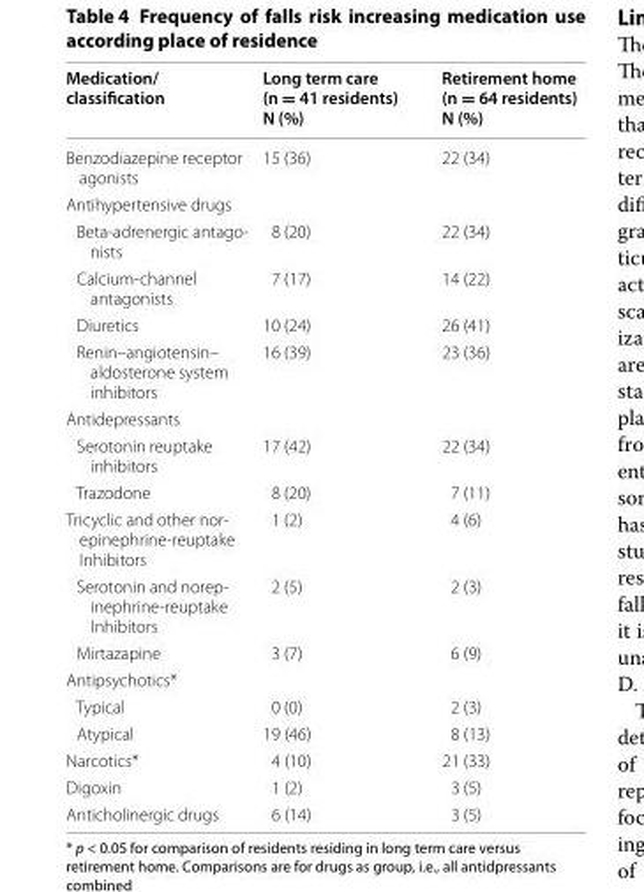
<table><thead><tr><td>Medication/ classification</td><td>Long term care (n = 41 residents) N (%)</td><td>Retirement home (n = 64 residents) N (%)</td></tr></thead><tbody><tr><td>Benzodiazepine receptor agonists</td><td>15 (36)</td><td>22 (34)</td></tr><tr><td colspan="3">Antihypertensive drugs</td></tr><tr><td>Beta‑adrenergic antago‑ nists</td><td>8 (20)</td><td>22 (34)</td></tr><tr><td>Calcium‑channel antagonists</td><td>7 (17)</td><td>14 (22)</td></tr><tr><td>Diuretics</td><td>10 (24)</td><td>26 (41)</td></tr><tr><td>Renin–angiotensin– aldosterone system inhibitors</td><td>16 (39)</td><td>23 (36)</td></tr><tr><td colspan="3">Antidepressants</td></tr><tr><td>Serotonin reuptake inhibitors</td><td>17 (42)</td><td>22 (34)</td></tr><tr><td>Trazodone</td><td>8 (20)</td><td>7 (11)</td></tr><tr><td>Tricyclic and other nor‑ epinephrine‑reuptake Inhibitors</td><td>1 (2)</td><td>4 (6)</td></tr><tr><td>Serotonin and norep‑ inephrine‑reuptake Inhibitors</td><td>2 (5)</td><td>2 (3)</td></tr><tr><td>Mirtazapine</td><td>3 (7)</td><td>6 (9)</td></tr><tr><td colspan="3">Antipsychotics*</td></tr><tr><td>Typical</td><td>0 (0)</td><td>2 (3)</td></tr><tr><td>Atypical</td><td>19 (46)</td><td>8 (13)</td></tr><tr><td>Narcotics*</td><td>4 (10)</td><td>21 (33)</td></tr><tr><td>Digoxin</td><td>1 (2)</td><td>3 (5)</td></tr><tr><td>Anticholinergic drugs</td><td>6 (14)</td><td>3 (5)</td></tr></tbody></table>